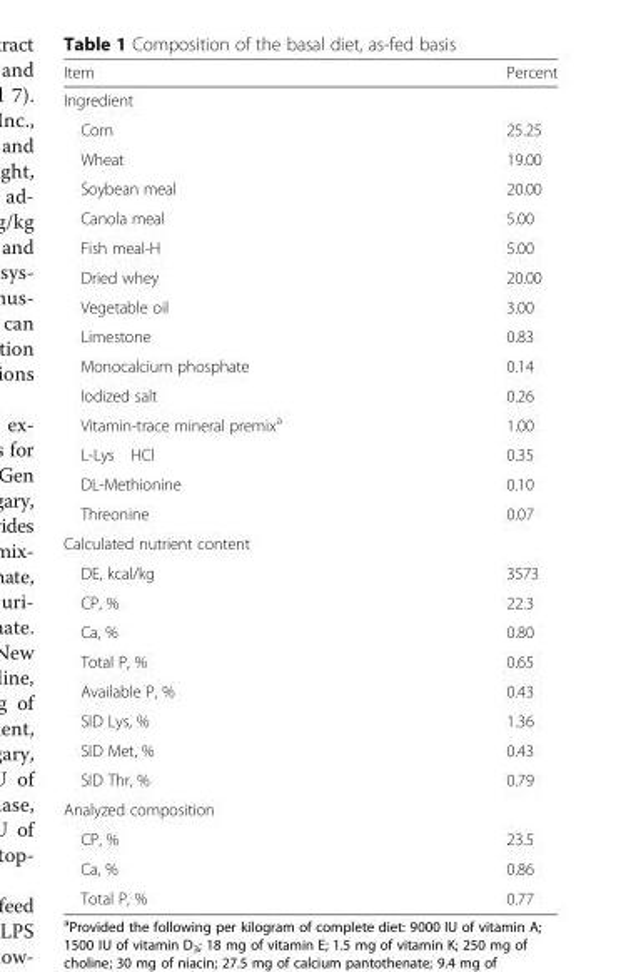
<table><thead><tr><td>Item</td><td>Percent</td></tr></thead><tbody><tr><td colspan="2">Ingredient</td></tr><tr><td>Corn</td><td>25.25</td></tr><tr><td>Wheat</td><td>19.00</td></tr><tr><td>Soybean meal</td><td>20.00</td></tr><tr><td>Canola meal</td><td>5.00</td></tr><tr><td>Fish meal-H</td><td>5.00</td></tr><tr><td>Dried whey</td><td>20.00</td></tr><tr><td>Vegetable oil</td><td>3.00</td></tr><tr><td>Limestone</td><td>0.83</td></tr><tr><td>Monocalcium phosphate</td><td>0.14</td></tr><tr><td>Iodized salt</td><td>0.26</td></tr><tr><td>Vitamin-trace mineral premix<sup>a</sup></td><td>1.00</td></tr><tr><td>L-Lys HCl</td><td>0.35</td></tr><tr><td>DL-Methionine</td><td>0.10</td></tr><tr><td>Threonine</td><td>0.07</td></tr><tr><td colspan="2">Calculated nutrient content</td></tr><tr><td>DE, kcal/kg</td><td>3573</td></tr><tr><td>CP, %</td><td>22.3</td></tr><tr><td>Ca, %</td><td>0.80</td></tr><tr><td>Total P, %</td><td>0.65</td></tr><tr><td>Available P, %</td><td>0.43</td></tr><tr><td>SID Lys, %</td><td>1.36</td></tr><tr><td>SID Met, %</td><td>0.43</td></tr><tr><td>SID Thr, %</td><td>0.79</td></tr><tr><td colspan="2">Analyzed composition</td></tr><tr><td>CP, %</td><td>23.5</td></tr><tr><td>Ca, %</td><td>0.86</td></tr><tr><td>Total P, %</td><td>0.77</td></tr></tbody></table>